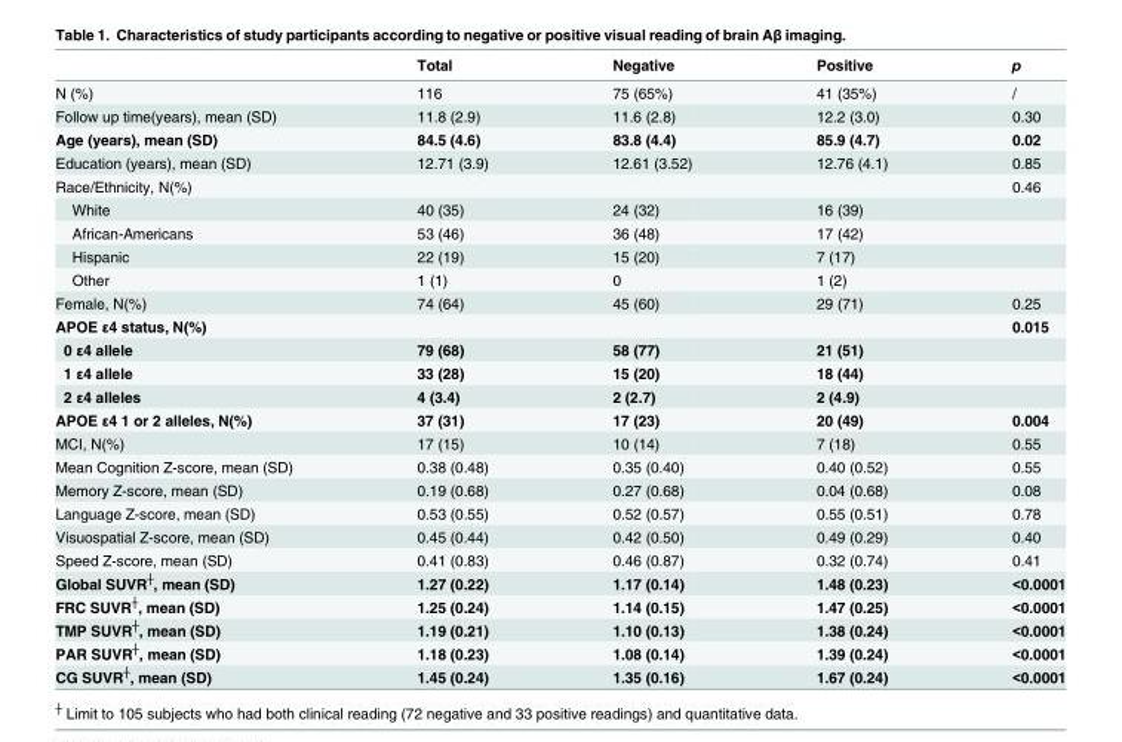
<table><thead><tr><td></td><td>Total</td><td>Negative</td><td>Positive</td><td>p</td></tr></thead><tbody><tr><td>N (%)</td><td>116</td><td>75 (65%)</td><td>41 (35%)</td><td>/</td></tr><tr><td>Follow up time(years), mean (SD)</td><td>11.8 (2.9)</td><td>11.6 (2.8)</td><td>12.2 (3.0)</td><td>0.30</td></tr><tr><td>Age (years), mean (SD)</td><td>84.5 (4.6)</td><td>83.8 (4.4)</td><td>85.9 (4.7)</td><td>0.02</td></tr><tr><td>Education (years), mean (SD)</td><td>12.71 (3.9)</td><td>12.61 (3.52)</td><td>12.76 (4.1)</td><td>0.85</td></tr><tr><td>Race/Ethnicity, N(%)</td><td></td><td></td><td></td><td>0.46</td></tr><tr><td>White</td><td>40 (35)</td><td>24 (32)</td><td>16 (39)</td><td></td></tr><tr><td>African-Americans</td><td>53 (46)</td><td>36 (48)</td><td>17 (42)</td><td></td></tr><tr><td>Hispanic</td><td>22 (19)</td><td>15 (20)</td><td>7 (17)</td><td></td></tr><tr><td>Other</td><td>1 (1)</td><td>0</td><td>1 (2)</td><td></td></tr><tr><td>Female, N(%)</td><td>74 (64)</td><td>45 (60)</td><td>29 (71)</td><td>0.25</td></tr><tr><td>APOE ε4 status, N(%)</td><td></td><td></td><td></td><td>0.015</td></tr><tr><td>0 ε4 allele</td><td>79 (68)</td><td>58 (77)</td><td>21 (51)</td><td></td></tr><tr><td>1 ε4 allele</td><td>33 (28)</td><td>15 (20)</td><td>18 (44)</td><td></td></tr><tr><td>2 ε4 alleles</td><td>4 (3.4)</td><td>2 (2.7)</td><td>2 (4.9)</td><td></td></tr><tr><td>APOE ε4 1 or 2 alleles, N(%)</td><td>37 (31)</td><td>17 (23)</td><td>20 (49)</td><td>0.004</td></tr><tr><td>MCI, N(%)</td><td>17 (15)</td><td>10 (14)</td><td>7 (18)</td><td>0.55</td></tr><tr><td>Mean Cognition Z-score, mean (SD)</td><td>0.38 (0.48)</td><td>0.35 (0.40)</td><td>0.40 (0.52)</td><td>0.55</td></tr><tr><td>Memory Z-score, mean (SD)</td><td>0.19 (0.68)</td><td>0.27 (0.68)</td><td>0.04 (0.68)</td><td>0.08</td></tr><tr><td>Language Z-score, mean (SD)</td><td>0.53 (0.55)</td><td>0.52 (0.57)</td><td>0.55 (0.51)</td><td>0.78</td></tr><tr><td>Visuospatial Z-score, mean (SD)</td><td>0.45 (0.44)</td><td>0.42 (0.50)</td><td>0.49 (0.29)</td><td>0.40</td></tr><tr><td>Speed Z-score, mean (SD)</td><td>0.41 (0.83)</td><td>0.46 (0.87)</td><td>0.32 (0.74)</td><td>0.41</td></tr><tr><td>Global SUVR<sup>┼</sup>, mean (SD)</td><td>1.27 (0.22)</td><td>1.17 (0.14)</td><td>1.48 (0.23)</td><td>&lt;0.0001</td></tr><tr><td>FRC SUVR<sup>┼</sup>, mean (SD)</td><td>1.25 (0.24)</td><td>1.14 (0.15)</td><td>1.47 (0.25)</td><td>&lt;0.0001</td></tr><tr><td>TMP SUVR<sup>┼</sup>, mean (SD)</td><td>1.19 (0.21)</td><td>1.10 (0.13)</td><td>1.38 (0.24)</td><td>&lt;0.0001</td></tr><tr><td>PAR SUVR<sup>┼</sup>, mean (SD)</td><td>1.18 (0.23)</td><td>1.08 (0.14)</td><td>1.39 (0.24)</td><td>&lt;0.0001</td></tr><tr><td>CG SUVR<sup>┼</sup>, mean (SD)</td><td>1.45 (0.24)</td><td>1.35 (0.16)</td><td>1.67 (0.24)</td><td>&lt;0.0001</td></tr></tbody></table>